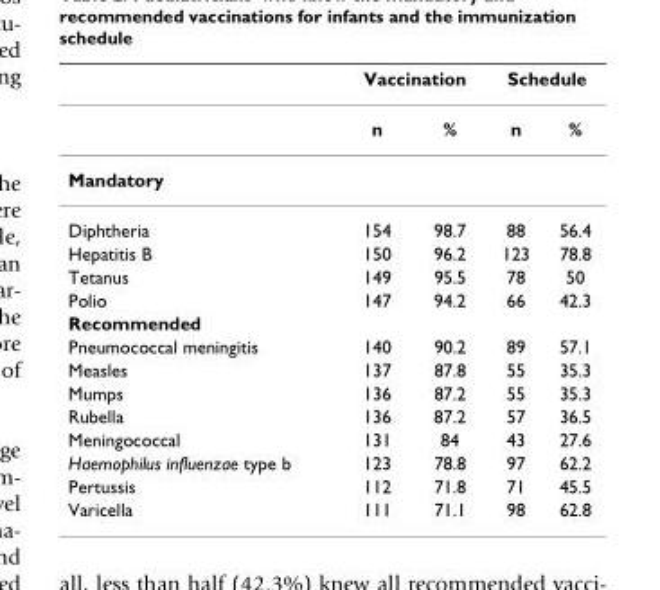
<table><thead><tr><td rowspan="2"></td><td colspan="2">Vaccination</td><td colspan="2">Schedule</td></tr><tr><td>n</td><td>%</td><td>n</td><td>%</td></tr></thead><tbody><tr><td colspan="5">Mandatory</td></tr><tr><td>Diphtheria</td><td>154</td><td>98.7</td><td>88</td><td>56.4</td></tr><tr><td>Hepatitis B</td><td>150</td><td>96.2</td><td>123</td><td>78.8</td></tr><tr><td>Tetanus</td><td>149</td><td>95.5</td><td>78</td><td>50</td></tr><tr><td>Polio</td><td>147</td><td>94.2</td><td>66</td><td>42.3</td></tr><tr><td colspan="5">Recommended</td></tr><tr><td>Pneumococcal meningitis</td><td>140</td><td>90.2</td><td>89</td><td>57.1</td></tr><tr><td>Measles</td><td>137</td><td>87.8</td><td>55</td><td>35.3</td></tr><tr><td>Mumps</td><td>136</td><td>87.2</td><td>55</td><td>35.3</td></tr><tr><td>Rubella</td><td>136</td><td>87.2</td><td>57</td><td>36.5</td></tr><tr><td>Meningococcal</td><td>131</td><td>84</td><td>43</td><td>27.6</td></tr><tr><td>Haemophilus influenzae type b</td><td>123</td><td>78.8</td><td>97</td><td>62.2</td></tr><tr><td>Pertussis</td><td>112</td><td>71.8</td><td>71</td><td>45.5</td></tr><tr><td>Varicella</td><td>111</td><td>71.1</td><td>98</td><td>62.8</td></tr></tbody></table>